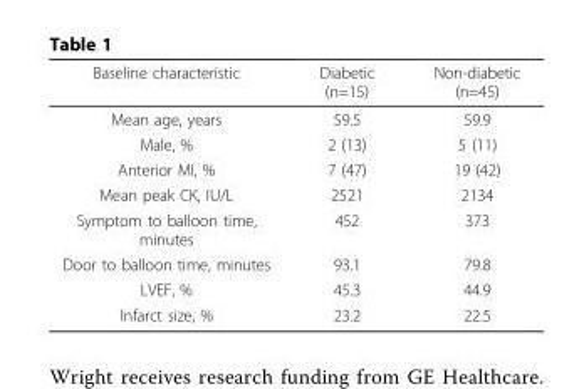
<table><thead><tr><td>Baseline characteristic</td><td>Diabetic (n=15)</td><td>Non-diabetic (n=45)</td></tr></thead><tbody><tr><td>Mean age, years</td><td>59.5</td><td>59.9</td></tr><tr><td>Male, %</td><td>2 (13)</td><td>5 (11)</td></tr><tr><td>Anterior MI, %</td><td>7 (47)</td><td>19 (42)</td></tr><tr><td>Mean peak CK, IU/L</td><td>2521</td><td>2134</td></tr><tr><td>Symptom to balloon time, minutes</td><td>452</td><td>373</td></tr><tr><td>Door to balloon time, minutes</td><td>93.1</td><td>79.8</td></tr><tr><td>LVEF, %</td><td>45.3</td><td>44.9</td></tr><tr><td>Infarct size, %</td><td>23.2</td><td>22.5</td></tr></tbody></table>